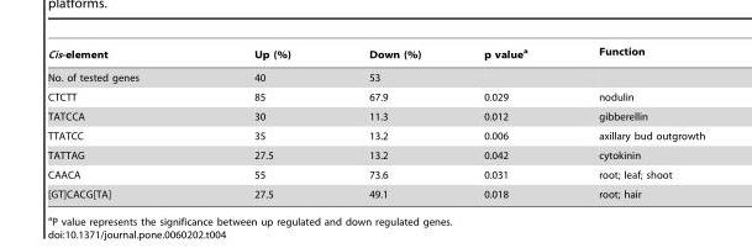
<table><thead><tr><td>Cis-element</td><td>Up (%)</td><td>Down (%)</td><td>p value<sup>a</sup></td><td>Function</td></tr></thead><tbody><tr><td>No. of tested genes</td><td>40</td><td>53</td><td></td><td></td></tr><tr><td>CTCTT</td><td>85</td><td>67.9</td><td>0.029</td><td>nodulin</td></tr><tr><td>TATCCA</td><td>30</td><td>11.3</td><td>0.012</td><td>gibberellin</td></tr><tr><td>TTATCC</td><td>35</td><td>13.2</td><td>0.006</td><td>axillary bud outgrowth</td></tr><tr><td>TATTAG</td><td>27.5</td><td>13.2</td><td>0.042</td><td>cytokinin</td></tr><tr><td>CAACA</td><td>55</td><td>73.6</td><td>0.031</td><td>root; leaf; shoot</td></tr><tr><td>[GT]CACG[TA]</td><td>27.5</td><td>49.1</td><td>0.018</td><td>root; hair</td></tr></tbody></table>